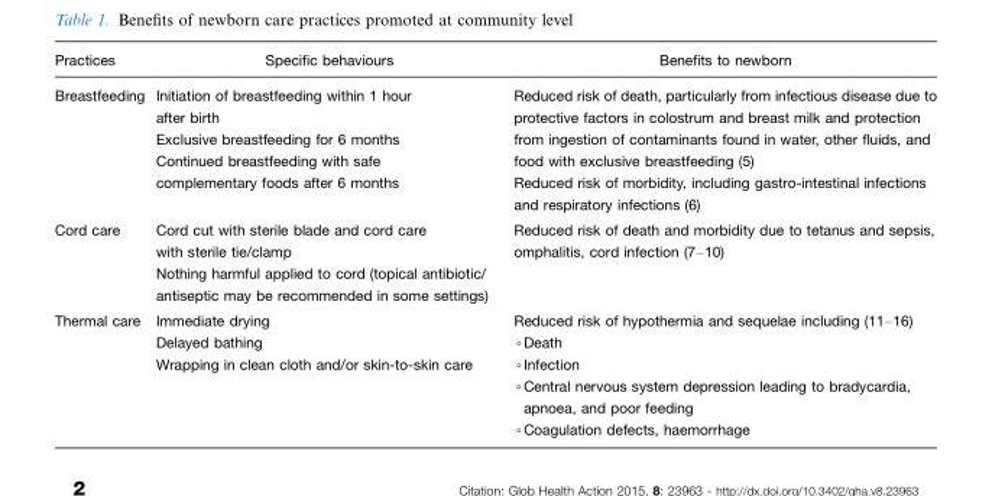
<table><thead><tr><td>Practices</td><td>Specific behaviours</td><td>Benefits to newborn</td></tr></thead><tbody><tr><td rowspan="3">Breastfeeding</td><td>Initiation of breastfeeding within 1 hour after birth</td><td>Reduced risk of death, particularly from infectious disease due to protective factors in colostrum and breast milk and protection</td></tr><tr><td>Exclusive breastfeeding for 6 months</td><td>from ingestion of contaminants found in water, other fluids, and</td></tr><tr><td>Continued breastfeeding with safe complementary foods after 6 months</td><td>food with exclusive breastfeeding (5) Reduced risk of morbidity, including gastro-intestinal infections and respiratory infections (6)</td></tr><tr><td rowspan="2">Cord care</td><td>Cord cut with sterile blade and cord care with sterile tie/clamp</td><td>Reduced risk of death and morbidity due to tetanus and sepsis, omphalitis, cord infection (7–10)</td></tr><tr><td>Nothing harmful applied to cord (topical antibiotic/ antiseptic may be recommended in some settings)</td><td></td></tr><tr><td rowspan="3">Thermal care</td><td>Immediate drying</td><td>Reduced risk of hypothermia and sequelae including (11–16)</td></tr><tr><td>Delayed bathing</td><td>∘Death</td></tr><tr><td>Wrapping in clean cloth and/or skin-to-skin care</td><td>∘Infection ∘Central nervous system depression leading to bradycardia, apnoea, and poor feeding ∘Coagulation defects, haemorrhage</td></tr></tbody></table>